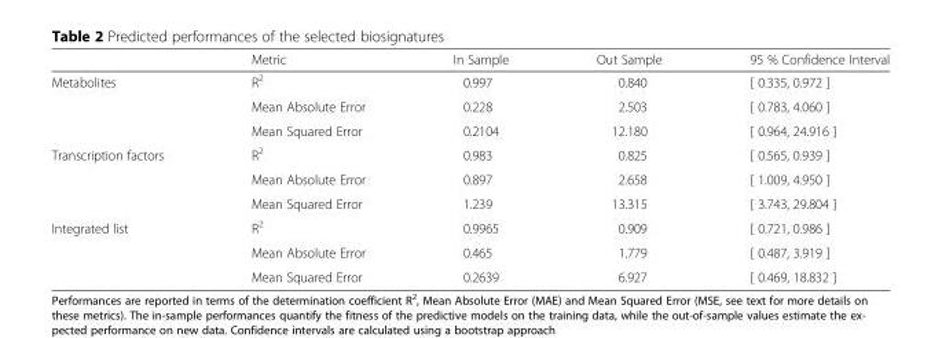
<table><thead><tr><td></td><td>Metric</td><td>In Sample</td><td>Out Sample</td><td>95 % Confidence Interval</td></tr></thead><tbody><tr><td rowspan="3">Metabolites</td><td>R<sup>2</sup></td><td>0.997</td><td>0.840</td><td>[ 0.335, 0.972 ]</td></tr><tr><td>Mean Absolute Error</td><td>0.228</td><td>2.503</td><td>[ 0.783, 4.060 ]</td></tr><tr><td>Mean Squared Error</td><td>0.2104</td><td>12.180</td><td>[ 0.964, 24.916 ]</td></tr><tr><td rowspan="3">Transcription factors</td><td>R<sup>2</sup></td><td>0.983</td><td>0.825</td><td>[ 0.565, 0.939 ]</td></tr><tr><td>Mean Absolute Error</td><td>0.897</td><td>2.658</td><td>[ 1.009, 4.950 ]</td></tr><tr><td>Mean Squared Error</td><td>1.239</td><td>13.315</td><td>[ 3.743, 29.804 ]</td></tr><tr><td rowspan="3">Integrated list</td><td>R<sup>2</sup></td><td>0.9965</td><td>0.909</td><td>[ 0.721, 0.986 ]</td></tr><tr><td>Mean Absolute Error</td><td>0.465</td><td>1.779</td><td>[ 0.487, 3.919 ]</td></tr><tr><td>Mean Squared Error</td><td>0.2639</td><td>6.927</td><td>[ 0.469, 18.832 ]</td></tr></tbody></table>